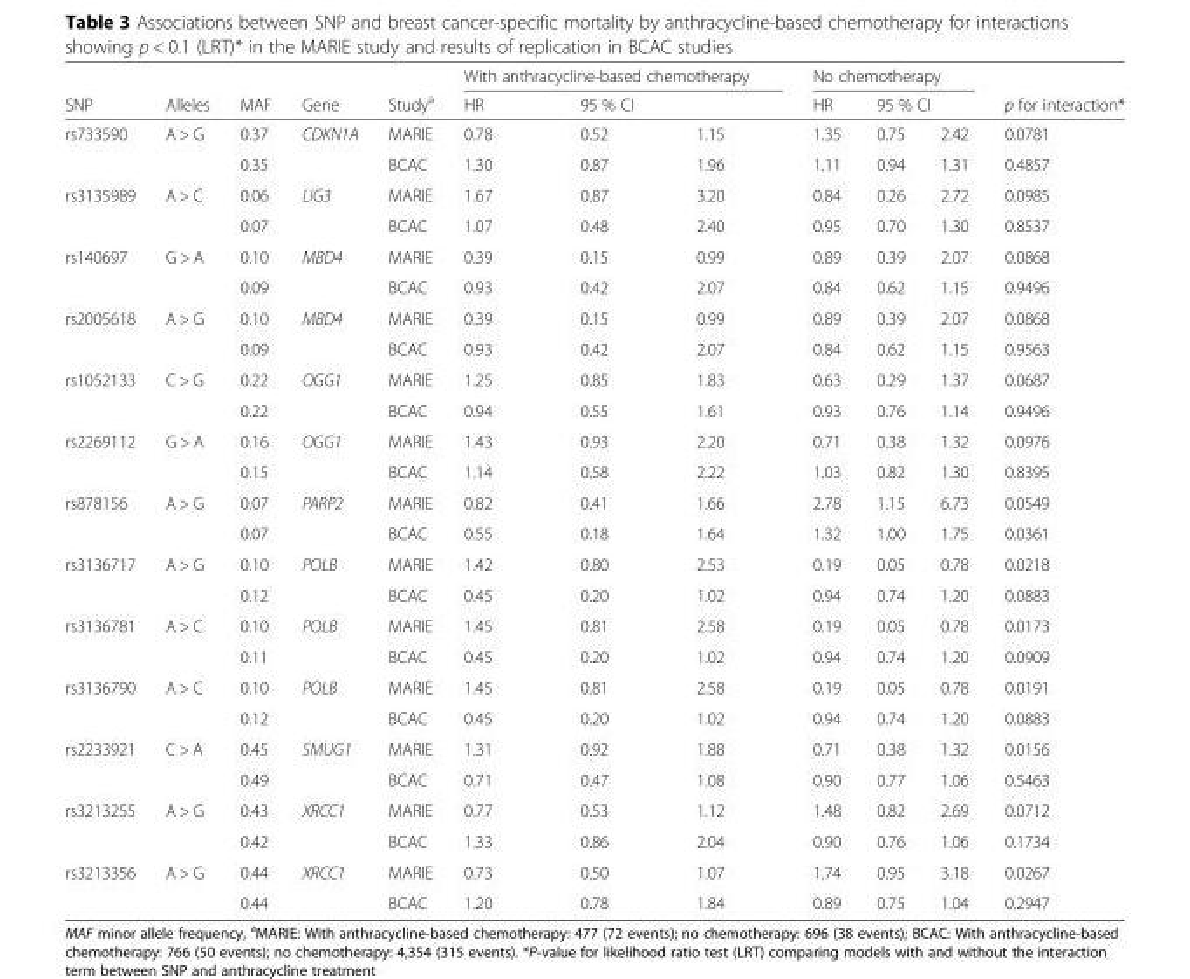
<table><thead><tr><td rowspan="3">SNP rs733590</td><td rowspan="3">Alleles A &gt; G</td><td rowspan="3">MAF 0.37</td><td rowspan="3">Gene CDKN1A</td><td rowspan="3">Study<sup>a</sup> MARIE</td><td colspan="3">With anthracycline-based chemotherapy</td><td colspan="3">No chemotherapy</td><td rowspan="3">p for interaction* 0.0781</td></tr><tr><td rowspan="2">HR 0.78</td><td colspan="2">95 % CI</td><td rowspan="2">HR 1.35</td><td colspan="2">95 % CI</td></tr><tr><td>0.52</td><td>1.15</td><td>0.75</td><td>2.42</td></tr></thead><tbody><tr><td></td><td></td><td>0.35</td><td></td><td>BCAC</td><td>1.30</td><td>0.87</td><td>1.96</td><td>1.11</td><td>0.94</td><td>1.31</td><td>0.4857</td></tr><tr><td rowspan="2">rs3135989</td><td>A &gt; C</td><td>0.06</td><td>LIG3</td><td>MARIE</td><td>1.67</td><td>0.87</td><td>3.20</td><td>0.84</td><td>0.26</td><td>2.72</td><td>0.0985</td></tr><tr><td></td><td>0.07</td><td></td><td>BCAC</td><td>1.07</td><td>0.48</td><td>2.40</td><td>0.95</td><td>0.70</td><td>1.30</td><td>0.8537</td></tr><tr><td rowspan="2">rs140697</td><td>G &gt; A</td><td>0.10</td><td>MBD4</td><td>MARIE</td><td>0.39</td><td>0.15</td><td>0.99</td><td>0.89</td><td>0.39</td><td>2.07</td><td>0.0868</td></tr><tr><td></td><td>0.09</td><td></td><td>BCAC</td><td>0.93</td><td>0.42</td><td>2.07</td><td>0.84</td><td>0.62</td><td>1.15</td><td>0.9496</td></tr><tr><td rowspan="2">rs2005618</td><td>A &gt; G</td><td>0.10</td><td>MBD4</td><td>MARIE</td><td>0.39</td><td>0.15</td><td>0.99</td><td>0.89</td><td>0.39</td><td>2.07</td><td>0.0868</td></tr><tr><td></td><td>0.09</td><td></td><td>BCAC</td><td>0.93</td><td>0.42</td><td>2.07</td><td>0.84</td><td>0.62</td><td>1.15</td><td>0.9563</td></tr><tr><td rowspan="2">rs1052133</td><td>C &gt; G</td><td>0.22</td><td>OGG1</td><td>MARIE</td><td>1.25</td><td>0.85</td><td>1.83</td><td>0.63</td><td>0.29</td><td>1.37</td><td>0.0687</td></tr><tr><td></td><td>0.22</td><td></td><td>BCAC</td><td>0.94</td><td>0.55</td><td>1.61</td><td>0.93</td><td>0.76</td><td>1.14</td><td>0.9496</td></tr><tr><td rowspan="2">rs2269112</td><td>G &gt; A</td><td>0.16</td><td>OGG1</td><td>MARIE</td><td>1.43</td><td>0.93</td><td>2.20</td><td>0.71</td><td>0.38</td><td>1.32</td><td>0.0976</td></tr><tr><td></td><td>0.15</td><td></td><td>BCAC</td><td>1.14</td><td>0.58</td><td>2.22</td><td>1.03</td><td>0.82</td><td>1.30</td><td>0.8395</td></tr><tr><td rowspan="2">rs878156</td><td>A &gt; G</td><td>0.07</td><td>PARP2</td><td>MARIE</td><td>0.82</td><td>0.41</td><td>1.66</td><td>2.78</td><td>1.15</td><td>6.73</td><td>0.0549</td></tr><tr><td></td><td>0.07</td><td></td><td>BCAC</td><td>0.55</td><td>0.18</td><td>1.64</td><td>1.32</td><td>1.00</td><td>1.75</td><td>0.0361</td></tr><tr><td rowspan="2">rs3136717</td><td>A &gt; G</td><td>0.10</td><td>POLB</td><td>MARIE</td><td>1.42</td><td>0.80</td><td>2.53</td><td>0.19</td><td>0.05</td><td>0.78</td><td>0.0218</td></tr><tr><td></td><td>0.12</td><td></td><td>BCAC</td><td>0.45</td><td>0.20</td><td>1.02</td><td>0.94</td><td>0.74</td><td>1.20</td><td>0.0883</td></tr><tr><td rowspan="2">rs3136781</td><td>A &gt; C</td><td>0.10</td><td>POLB</td><td>MARIE</td><td>1.45</td><td>0.81</td><td>2.58</td><td>0.19</td><td>0.05</td><td>0.78</td><td>0.0173</td></tr><tr><td></td><td>0.11</td><td></td><td>BCAC</td><td>0.45</td><td>0.20</td><td>1.02</td><td>0.94</td><td>0.74</td><td>1.20</td><td>0.0909</td></tr><tr><td rowspan="2">rs3136790</td><td>A &gt; C</td><td>0.10</td><td>POLB</td><td>MARIE</td><td>1.45</td><td>0.81</td><td>2.58</td><td>0.19</td><td>0.05</td><td>0.78</td><td>0.0191</td></tr><tr><td></td><td>0.12</td><td></td><td>BCAC</td><td>0.45</td><td>0.20</td><td>1.02</td><td>0.94</td><td>0.74</td><td>1.20</td><td>0.0883</td></tr><tr><td rowspan="2">rs2233921</td><td>C &gt; A</td><td>0.45</td><td>SMUG1</td><td>MARIE</td><td>1.31</td><td>0.92</td><td>1.88</td><td>0.71</td><td>0.38</td><td>1.32</td><td>0.0156</td></tr><tr><td></td><td>0.49</td><td></td><td>BCAC</td><td>0.71</td><td>0.47</td><td>1.08</td><td>0.90</td><td>0.77</td><td>1.06</td><td>0.5463</td></tr><tr><td rowspan="2">rs3213255</td><td>A &gt; G</td><td>0.43</td><td>XRCC1</td><td>MARIE</td><td>0.77</td><td>0.53</td><td>1.12</td><td>1.48</td><td>0.82</td><td>2.69</td><td>0.0712</td></tr><tr><td></td><td>0.42</td><td></td><td>BCAC</td><td>1.33</td><td>0.86</td><td>2.04</td><td>0.90</td><td>0.76</td><td>1.06</td><td>0.1734</td></tr><tr><td rowspan="2">rs3213356</td><td>A &gt; G</td><td>0.44</td><td>XRCC1</td><td>MARIE</td><td>0.73</td><td>0.50</td><td>1.07</td><td>1.74</td><td>0.95</td><td>3.18</td><td>0.0267</td></tr><tr><td></td><td>0.44</td><td></td><td>BCAC</td><td>1.20</td><td>0.78</td><td>1.84</td><td>0.89</td><td>0.75</td><td>1.04</td><td>0.2947</td></tr></tbody></table>